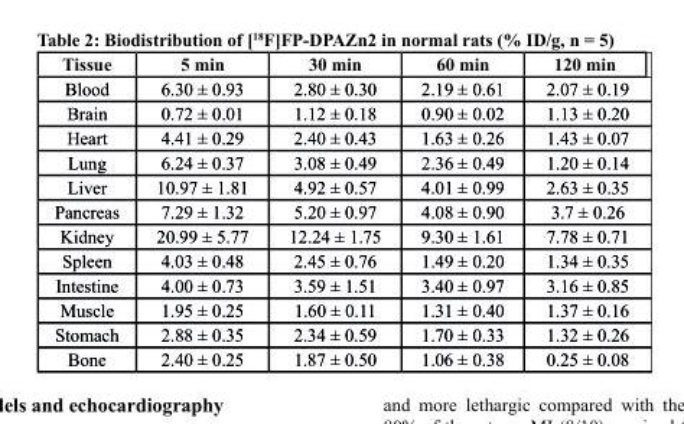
<table><thead><tr><td>tissue</td><td>5 min</td><td>30 min</td><td>60 min</td><td>120 min</td></tr></thead><tbody><tr><td>Blood</td><td>6.30 ± 0.93</td><td>2.80 ± 0.30</td><td>2.19 ± 0.61</td><td>2.07 ± 0.19</td></tr><tr><td>Brain</td><td>0.72 ± 0.01</td><td>1.12 ± 0.18</td><td>0.90 ± 0.02</td><td>1.13 ± 0.20</td></tr><tr><td>Heart</td><td>4.41 ± 0.29</td><td>2.40 ± 0.43</td><td>1.63 ± 0.26</td><td>1.43 ± 0.07</td></tr><tr><td>Lung</td><td>6.24 ± 0.37</td><td>3.08 ± 0.49</td><td>2.36 ± 0.49</td><td>1.20 ± 0.14</td></tr><tr><td>Liver</td><td>10.97 ± 1.81</td><td>4.92 ± 0.57</td><td>4.01 ± 0.99</td><td>2.63 ± 0.35</td></tr><tr><td>Pancreas</td><td>7.29 ± 1.32</td><td>5.20 ± 0.97</td><td>4.08 ± 0.90</td><td>3.7 ± 0.26</td></tr><tr><td>Kidney</td><td>20.99 ± 5.77</td><td>12.24 ± 1.75</td><td>9.30 ± 1.61</td><td>7.78 ± 0.71</td></tr><tr><td>Spleen</td><td>4.03 ± 0.48</td><td>2.45 ± 0.76</td><td>1.49 ± 0.20</td><td>1.34 ± 0.35</td></tr><tr><td>Intestine</td><td>4.00 ± 0.73</td><td>3.59 ± 1.51</td><td>3.40 ± 0.97</td><td>3.16 ± 0.85</td></tr><tr><td>Muscle</td><td>1.95 ± 0.25</td><td>1.60 ± 0.11</td><td>1.31 ± 0.40</td><td>1.37 ± 0.16</td></tr><tr><td>Stomach</td><td>2.88 ± 0.35</td><td>2.34 ± 0.59</td><td>1.70 ± 0.33</td><td>1.32 ± 0.26</td></tr><tr><td>Bone</td><td>2.40 ± 0.25</td><td>1.87 ± 0.50</td><td>1.06 ± 0.38</td><td>0.25 ± 0.08</td></tr></tbody></table>